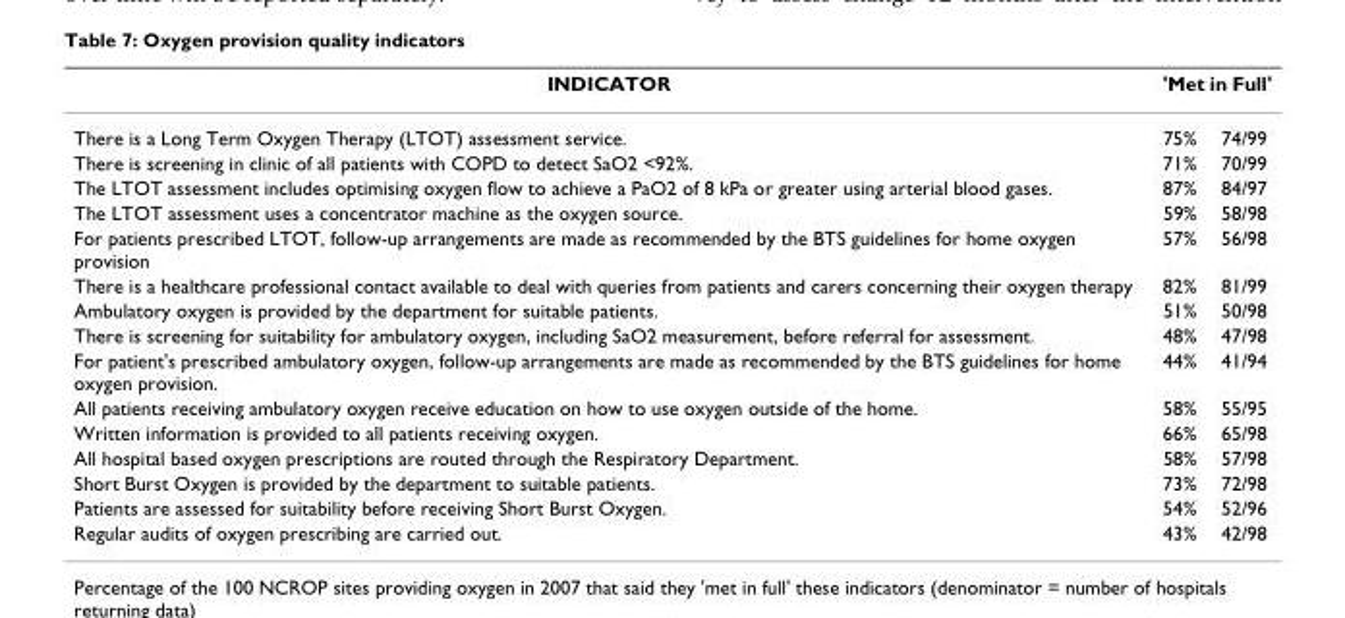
<table><thead><tr><td rowspan="2">INDICATOR There is a Long Term Oxygen Therapy (LTOT) assessment service.</td><td colspan="2">&#x27;Met in Full&#x27;</td></tr><tr><td>75%</td><td>74/99</td></tr></thead><tbody><tr><td>There is screening in clinic of all patients with COPD to detect SaO2 &lt;92%.</td><td>71%</td><td>70/99</td></tr><tr><td>The LTOT assessment includes optimising oxygen flow to achieve a PaO2 of 8 kPa or greater using arterial blood gases.</td><td>87%</td><td>84/97</td></tr><tr><td>The LTOT assessment uses a concentrator machine as the oxygen source.</td><td>59%</td><td>58/98</td></tr><tr><td>For patients prescribed LTOT, follow-up arrangements are made as recommended by the BTS guidelines for home oxygen provision</td><td>57%</td><td>56/98</td></tr><tr><td>There is a healthcare professional contact available to deal with queries from patients and carers concerning their oxygen therapy</td><td>82%</td><td>81/99</td></tr><tr><td>Ambulatory oxygen is provided by the department for suitable patients.</td><td>51%</td><td>50/98</td></tr><tr><td>There is screening for suitability for ambulatory oxygen, including SaO2 measurement, before referral for assessment.</td><td>48%</td><td>47/98</td></tr><tr><td>For patient&#x27;s prescribed ambulatory oxygen, follow-up arrangements are made as recommended by the BTS guidelines for home oxygen provision.</td><td>44%</td><td>41/94</td></tr><tr><td>All patients receiving ambulatory oxygen receive education on how to use oxygen outside of the home.</td><td>58%</td><td>55/95</td></tr><tr><td>Written information is provided to all patients receiving oxygen.</td><td>66%</td><td>65/98</td></tr><tr><td>All hospital based oxygen prescriptions are routed through the Respiratory Department.</td><td>58%</td><td>57/98</td></tr><tr><td>Short Burst Oxygen is provided by the department to suitable patients.</td><td>73%</td><td>72/98</td></tr><tr><td>Patients are assessed for suitability before receiving Short Burst Oxygen.</td><td>54%</td><td>52/96</td></tr><tr><td>Regular audits of oxygen prescribing are carried out.</td><td>43%</td><td>42/98</td></tr></tbody></table>